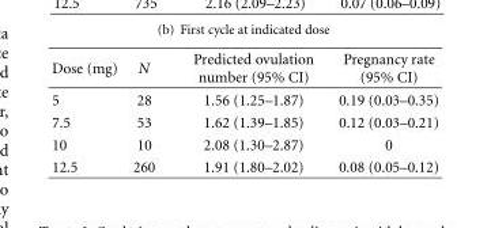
<table><thead><tr><td>Dose (mg)</td><td>N</td><td>Predicted ovulation number (95% CI)</td><td>Pregnancy rate (95% CI)</td></tr></thead><tbody><tr><td>5</td><td>28</td><td>1.56 (1.25–1.87)</td><td>0.19 (0.03–0.35)</td></tr><tr><td>7.5</td><td>53</td><td>1.62 (1.39–1.85)</td><td>0.12 (0.03–0.21)</td></tr><tr><td>10</td><td>10</td><td>2.08 (1.30–2.87)</td><td>0</td></tr><tr><td>12.5</td><td>260</td><td>1.91 (1.80–2.02)</td><td>0.08 (0.05–0.12)</td></tr></tbody></table>